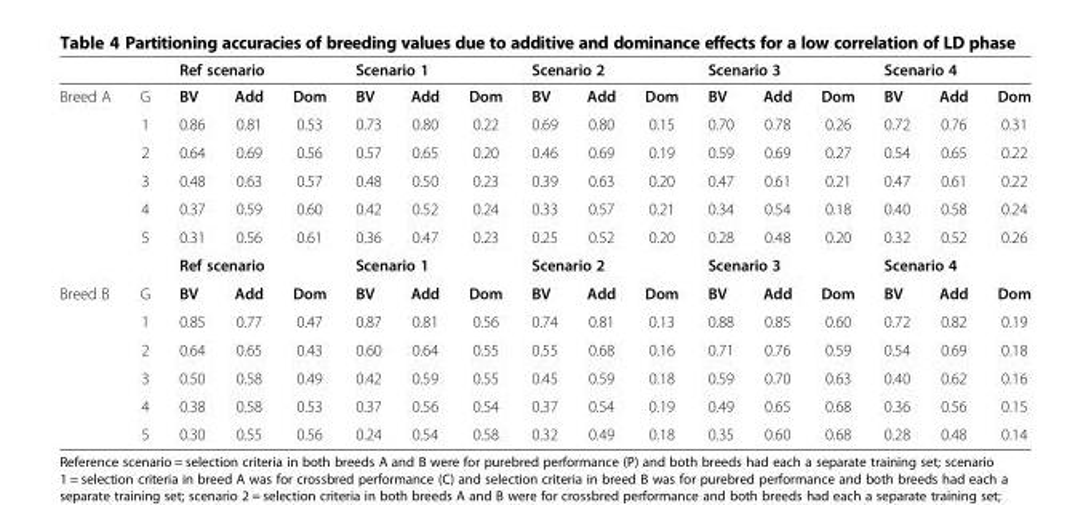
<table><thead><tr><td rowspan="2">Breed A</td><td rowspan="2">G</td><td colspan="3">Ref scenario</td><td colspan="3">Scenario 1</td><td colspan="3">Scenario 2</td><td colspan="3">Scenario 3</td><td colspan="3">Scenario 4</td></tr><tr><td>BV</td><td>Add</td><td>Dom</td><td>BV</td><td>Add</td><td>Dom</td><td>BV</td><td>Add</td><td>Dom</td><td>BV</td><td>Add</td><td>Dom</td><td>BV</td><td>Add</td><td>Dom</td></tr></thead><tbody><tr><td></td><td>1</td><td>0.86</td><td>0.81</td><td>0.53</td><td>0.73</td><td>0.80</td><td>0.22</td><td>0.69</td><td>0.80</td><td>0.15</td><td>0.70</td><td>0.78</td><td>0.26</td><td>0.72</td><td>0.76</td><td>0.31</td></tr><tr><td></td><td>2</td><td>0.64</td><td>0.69</td><td>0.56</td><td>0.57</td><td>0.65</td><td>0.20</td><td>0.46</td><td>0.69</td><td>0.19</td><td>0.59</td><td>0.69</td><td>0.27</td><td>0.54</td><td>0.65</td><td>0.22</td></tr><tr><td></td><td>3</td><td>0.48</td><td>0.63</td><td>0.57</td><td>0.48</td><td>0.50</td><td>0.23</td><td>0.39</td><td>0.63</td><td>0.20</td><td>0.47</td><td>0.61</td><td>0.21</td><td>0.47</td><td>0.61</td><td>0.22</td></tr><tr><td></td><td>4</td><td>0.37</td><td>0.59</td><td>0.60</td><td>0.42</td><td>0.52</td><td>0.24</td><td>0.33</td><td>0.57</td><td>0.21</td><td>0.34</td><td>0.54</td><td>0.18</td><td>0.40</td><td>0.58</td><td>0.24</td></tr><tr><td></td><td>5</td><td>0.31</td><td>0.56</td><td>0.61</td><td>0.36</td><td>0.47</td><td>0.23</td><td>0.25</td><td>0.52</td><td>0.20</td><td>0.28</td><td>0.48</td><td>0.20</td><td>0.32</td><td>0.52</td><td>0.26</td></tr><tr><td></td><td></td><td colspan="3">Ref scenario</td><td colspan="3">Scenario 1</td><td colspan="3">Scenario 2</td><td colspan="3">Scenario 3</td><td colspan="3">Scenario 4</td></tr><tr><td rowspan="6">Breed B</td><td>G</td><td>BV</td><td>Add</td><td>Dom</td><td>BV</td><td>Add</td><td>Dom</td><td>BV</td><td>Add</td><td>Dom</td><td>BV</td><td>Add</td><td>Dom</td><td>BV</td><td>Add</td><td>Dom</td></tr><tr><td>1</td><td>0.85</td><td>0.77</td><td>0.47</td><td>0.87</td><td>0.81</td><td>0.56</td><td>0.74</td><td>0.81</td><td>0.13</td><td>0.88</td><td>0.85</td><td>0.60</td><td>0.72</td><td>0.82</td><td>0.19</td></tr><tr><td>2</td><td>0.64</td><td>0.65</td><td>0.43</td><td>0.60</td><td>0.64</td><td>0.55</td><td>0.55</td><td>0.68</td><td>0.16</td><td>0.71</td><td>0.76</td><td>0.59</td><td>0.54</td><td>0.69</td><td>0.18</td></tr><tr><td>3</td><td>0.50</td><td>0.58</td><td>0.49</td><td>0.42</td><td>0.59</td><td>0.55</td><td>0.45</td><td>0.59</td><td>0.18</td><td>0.59</td><td>0.70</td><td>0.63</td><td>0.40</td><td>0.62</td><td>0.16</td></tr><tr><td>4</td><td>0.38</td><td>0.58</td><td>0.53</td><td>0.37</td><td>0.56</td><td>0.54</td><td>0.37</td><td>0.54</td><td>0.19</td><td>0.49</td><td>0.65</td><td>0.68</td><td>0.36</td><td>0.56</td><td>0.15</td></tr><tr><td>5</td><td>0.30</td><td>0.55</td><td>0.56</td><td>0.24</td><td>0.54</td><td>0.58</td><td>0.32</td><td>0.49</td><td>0.18</td><td>0.35</td><td>0.60</td><td>0.68</td><td>0.28</td><td>0.48</td><td>0.14</td></tr></tbody></table>